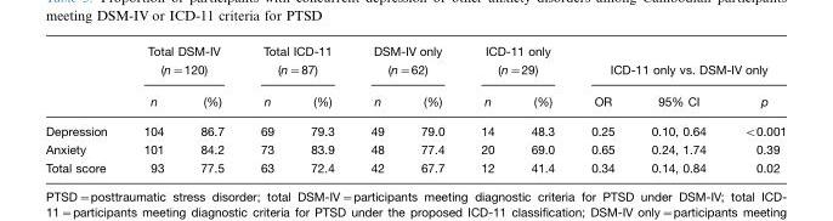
<table><thead><tr><td rowspan="2"></td><td colspan="2">Total DSM-IV (n=120)</td><td colspan="2">Total ICD-11 (n=87)</td><td colspan="2">DSM-IV only (n=62)</td><td colspan="2">ICD-11 only (n=29)</td><td colspan="3">ICD-11 only vs. DSM-IV only</td></tr><tr><td>n</td><td>(%)</td><td>n</td><td>(%)</td><td>n</td><td>(%)</td><td>n</td><td>(%)</td><td>OR</td><td>95% CI</td><td>p</td></tr></thead><tbody><tr><td>Depression</td><td>104</td><td>86.7</td><td>69</td><td>79.3</td><td>49</td><td>79.0</td><td>14</td><td>48.3</td><td>0.25</td><td>0.10, 0.64</td><td>&lt;0.001</td></tr><tr><td>Anxiety</td><td>101</td><td>84.2</td><td>73</td><td>83.9</td><td>48</td><td>77.4</td><td>20</td><td>69.0</td><td>0.65</td><td>0.24, 1.74</td><td>0.39</td></tr><tr><td>Total score</td><td>93</td><td>77.5</td><td>63</td><td>72.4</td><td>42</td><td>67.7</td><td>12</td><td>41.4</td><td>0.34</td><td>0.14, 0.84</td><td>0.02</td></tr></tbody></table>